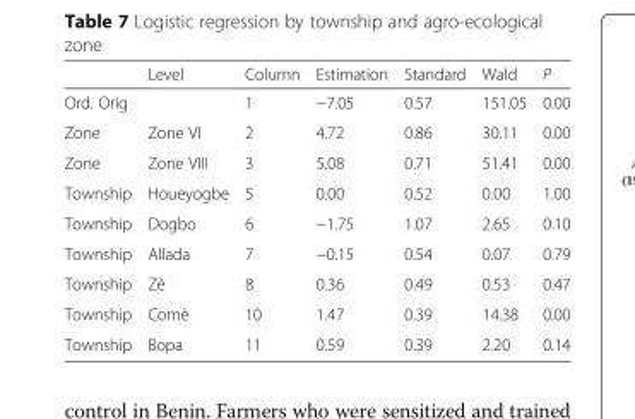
<table><thead><tr><td></td><td>Level</td><td>Column</td><td>Estimation</td><td>Standard</td><td>Wald</td><td>P</td></tr></thead><tbody><tr><td>Ord. Orig</td><td></td><td>1</td><td>−7.05</td><td>0.57</td><td>151.05</td><td>0.00</td></tr><tr><td>Zone</td><td>Zone VI</td><td>2</td><td>4.72</td><td>0.86</td><td>30.11</td><td>0.00</td></tr><tr><td>Zone</td><td>Zone VIII</td><td>3</td><td>5.08</td><td>0.71</td><td>51.41</td><td>0.00</td></tr><tr><td>Township</td><td>Houeyogbe</td><td>5</td><td>0.00</td><td>0.52</td><td>0.00</td><td>1.00</td></tr><tr><td>Township</td><td>Dogbo</td><td>6</td><td>−1.75</td><td>1.07</td><td>2.65</td><td>0.10</td></tr><tr><td>Township</td><td>Allada</td><td>7</td><td>−0.15</td><td>0.54</td><td>0.07</td><td>0.79</td></tr><tr><td>Township</td><td>Zè</td><td>8</td><td>0.36</td><td>0.49</td><td>0.53</td><td>0.47</td></tr><tr><td>Township</td><td>Comè</td><td>10</td><td>1.47</td><td>0.39</td><td>14.38</td><td>0.00</td></tr><tr><td>Township</td><td>Bopa</td><td>11</td><td>0.59</td><td>0.39</td><td>2.20</td><td>0.14</td></tr></tbody></table>